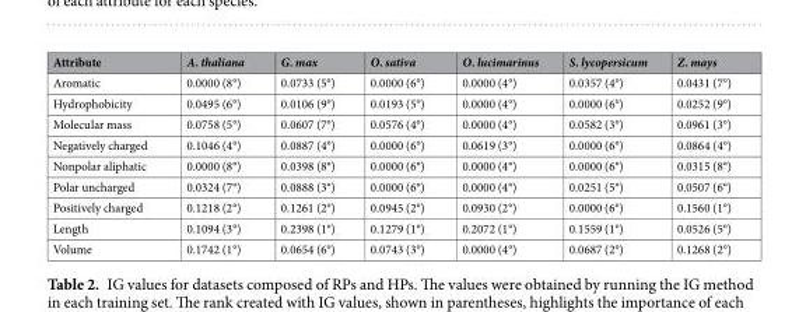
<table><thead><tr><td>Attribute</td><td>A. thaliana</td><td>G. max</td><td>O. sativa</td><td>O. lucimarinus</td><td>S. lycopersicum</td><td>Z. mays</td></tr></thead><tbody><tr><td>Aromatic</td><td>0.0000 (8°)</td><td>0.0733 (5°)</td><td>0.0000 (6°)</td><td>0.0000 (4°)</td><td>0.0357 (4°)</td><td>0.0431 (7°)</td></tr><tr><td>Hydrophobicity</td><td>0.0495 (6°)</td><td>0.0106 (9°)</td><td>0.0193 (5°)</td><td>0.0000 (4°)</td><td>0.0000 (6°)</td><td>0.0252 (9°)</td></tr><tr><td>Molecular mass</td><td>0.0758 (5°)</td><td>0.0607 (7°)</td><td>0.0576 (4°)</td><td>0.0000 (4°)</td><td>0.0582 (3°)</td><td>0.0961 (3°)</td></tr><tr><td>Negatively charged</td><td>0.1046 (4°)</td><td>0.0887 (4°)</td><td>0.0000 (6°)</td><td>0.0619 (3°)</td><td>0.0000 (6°)</td><td>0.0864 (4°)</td></tr><tr><td>Nonpolar aliphatic</td><td>0.0000 (8°)</td><td>0.0398 (8°)</td><td>0.0000 (6°)</td><td>0.0000 (4°)</td><td>0.0000 (6°)</td><td>0.0315 (8°)</td></tr><tr><td>Polar uncharged</td><td>0.0324 (7°)</td><td>0.0888 (3°)</td><td>0.0000 (6°)</td><td>0.0000 (4°)</td><td>0.0251 (5°)</td><td>0.0507 (6°)</td></tr><tr><td>Positively charged</td><td>0.1218 (2°)</td><td>0.1261 (2°)</td><td>0.0945 (2°)</td><td>0.0930 (2°)</td><td>0.0000 (6°)</td><td>0.1560 (1°)</td></tr><tr><td>Length</td><td>0.1094 (3°)</td><td>0.2398 (1°)</td><td>0.1279 (1°)</td><td>0.2072 (1°)</td><td>0.1559 (1°)</td><td>0.0526 (5°)</td></tr><tr><td>Volume</td><td>0.1742 (1°)</td><td>0.0654 (6°)</td><td>0.0743 (3°)</td><td>0.0000 (4°)</td><td>0.0687 (2°)</td><td>0.1268 (2°)</td></tr></tbody></table>